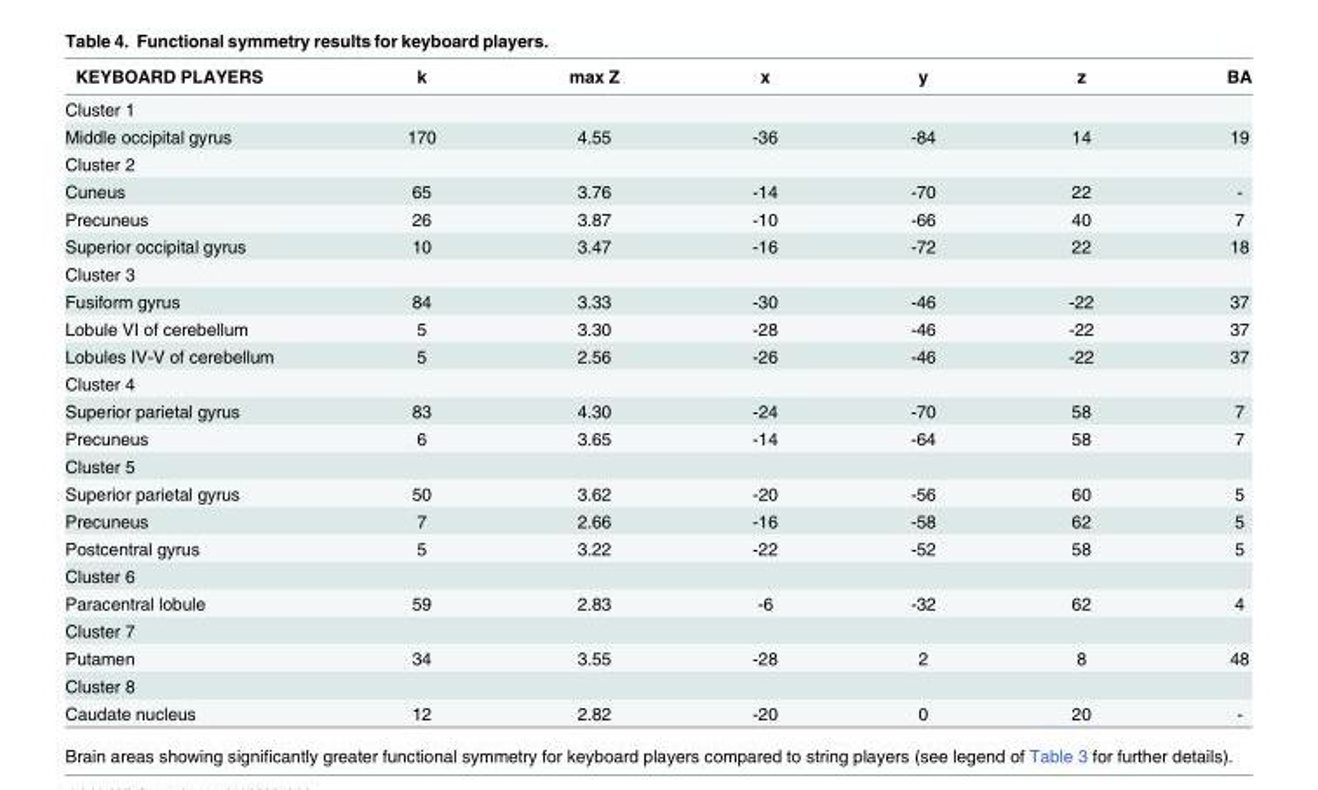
<table><thead><tr><td>KEYBOARD PLAYERS</td><td>k</td><td>max Z</td><td>x</td><td>y</td><td>z</td><td>BA</td></tr></thead><tbody><tr><td colspan="7">Cluster 1</td></tr><tr><td>Middle occipital gyrus</td><td>170</td><td>4.55</td><td>-36</td><td>-84</td><td>14</td><td>19</td></tr><tr><td colspan="7">Cluster 2</td></tr><tr><td>Cuneus</td><td>65</td><td>3.76</td><td>-14</td><td>-70</td><td>22</td><td>-</td></tr><tr><td>Precuneus</td><td>26</td><td>3.87</td><td>-10</td><td>-66</td><td>40</td><td>7</td></tr><tr><td>Superior occipital gyrus</td><td>10</td><td>3.47</td><td>-16</td><td>-72</td><td>22</td><td>18</td></tr><tr><td colspan="7">Cluster 3</td></tr><tr><td>Fusiform gyrus</td><td>84</td><td>3.33</td><td>-30</td><td>-46</td><td>-22</td><td>37</td></tr><tr><td>Lobule VI of cerebellum</td><td>5</td><td>3.30</td><td>-28</td><td>-46</td><td>-22</td><td>37</td></tr><tr><td>Lobules IV-V of cerebellum</td><td>5</td><td>2.56</td><td>-26</td><td>-46</td><td>-22</td><td>37</td></tr><tr><td colspan="7">Cluster 4</td></tr><tr><td>Superior parietal gyrus</td><td>83</td><td>4.30</td><td>-24</td><td>-70</td><td>58</td><td>7</td></tr><tr><td>Precuneus</td><td>6</td><td>3.65</td><td>-14</td><td>-64</td><td>58</td><td>7</td></tr><tr><td colspan="7">Cluster 5</td></tr><tr><td>Superior parietal gyrus</td><td>50</td><td>3.62</td><td>-20</td><td>-56</td><td>60</td><td>5</td></tr><tr><td>Precuneus</td><td>7</td><td>2.66</td><td>-16</td><td>-58</td><td>62</td><td>5</td></tr><tr><td>Postcentral gyrus</td><td>5</td><td>3.22</td><td>-22</td><td>-52</td><td>58</td><td>5</td></tr><tr><td colspan="7">Cluster 6</td></tr><tr><td>Paracentral lobule</td><td>59</td><td>2.83</td><td>-6</td><td>-32</td><td>62</td><td>4</td></tr><tr><td colspan="7">Cluster 7</td></tr><tr><td>Putamen</td><td>34</td><td>3.55</td><td>-28</td><td>2</td><td>8</td><td>48</td></tr><tr><td colspan="7">Cluster 8</td></tr><tr><td>Caudate nucleus</td><td>12</td><td>2.82</td><td>-20</td><td>0</td><td>20</td><td>-</td></tr></tbody></table>